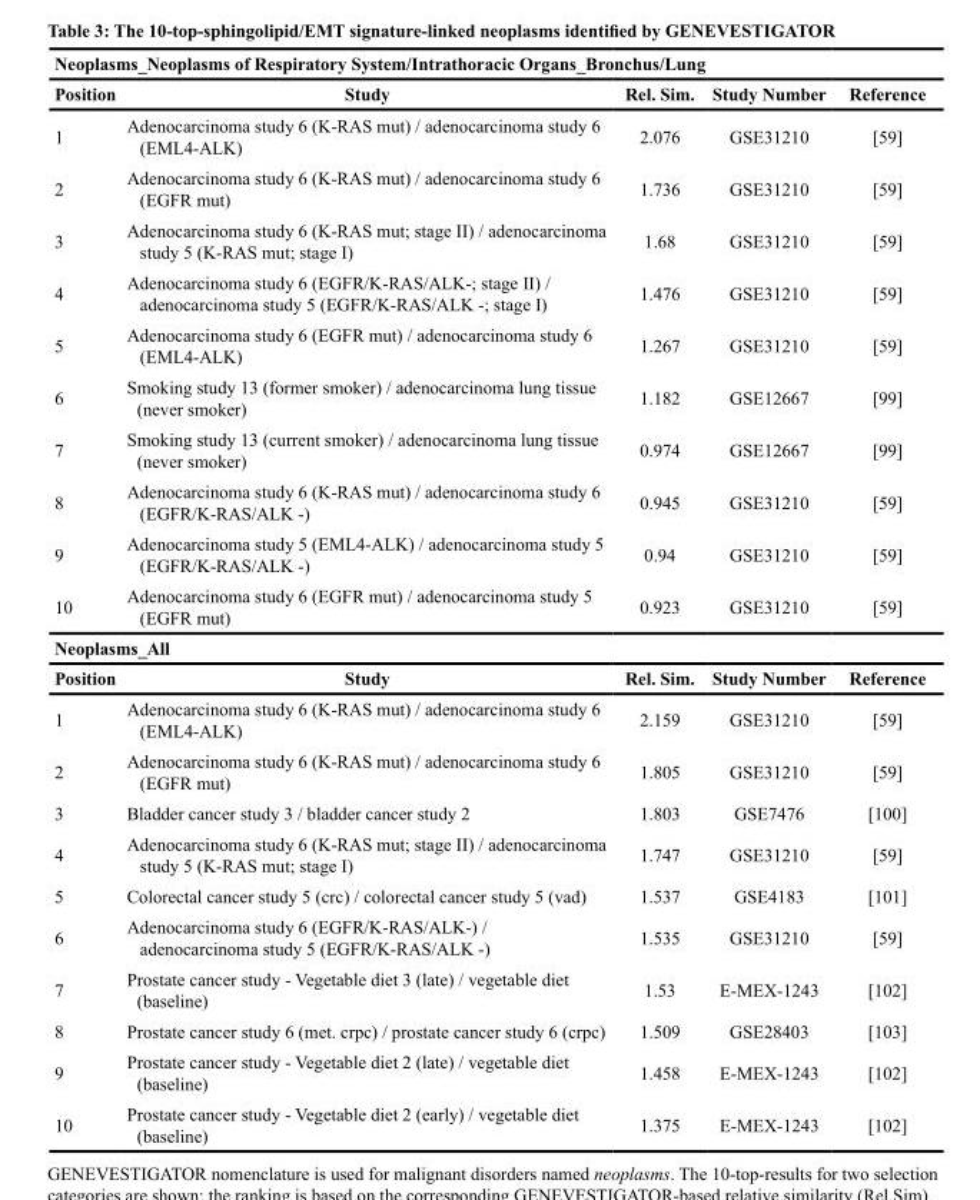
<table><thead><tr><td colspan="5">Neoplasms_Neoplasms of Respiratory System/Intrathoracic Organs_Bronchus/Lung</td></tr><tr><td>Position</td><td>Study</td><td>Rel. Sim.</td><td>Study Number</td><td>Reference</td></tr></thead><tbody><tr><td>1</td><td>A denocarcinoma study 6 (K-RAS mut) / adenocarcinoma study 6 (EML4-ALK)</td><td>2.076</td><td>GSE31210</td><td>[59]</td></tr><tr><td>2</td><td>A denocarcinoma study 6 (K-RAS mut) / adenocarcinoma study 6 (EGFR mut)</td><td>1.736</td><td>GSE31210</td><td>[59]</td></tr><tr><td>3</td><td>A denocarcinoma study 6 (K-RAS mut; stage II) / adenocarcinoma study 5 (K-RAS mut; stage I)</td><td>1.68</td><td>GSE31210</td><td>[59]</td></tr><tr><td>4</td><td>A denocarcinoma study 6 (EGFR/K-RAS/ALK-; stage II) / adenocarcinoma study 5 (EGFR/K-RAS/ALK -; stage I)</td><td>1.476</td><td>GSE31210</td><td>[59]</td></tr><tr><td>5</td><td>A denocarcinoma study 6 (EGFR mut) / adenocarcinoma study 6 (EML4-ALK)</td><td>1.267</td><td>GSE31210</td><td>[59]</td></tr><tr><td>6</td><td>S moking study 13 (former smoker) / adenocarcinoma lung tissue (never smoker)</td><td>1.182</td><td>GSE12667</td><td>[99]</td></tr><tr><td>7</td><td>S moking study 13 (current smoker) / adenocarcinoma lung tissue (never smoker)</td><td>0.974</td><td>GSE12667</td><td>[99]</td></tr><tr><td>8</td><td>A denocarcinoma study 6 (K-RAS mut) / adenocarcinoma study 6 (EGFR/K-RAS/ALK -)</td><td>0.945</td><td>GSE31210</td><td>[59]</td></tr><tr><td>9</td><td>A denocarcinoma study 5 (EML4-ALK) / adenocarcinoma study 5 (EGFR/K-RAS/ALK -)</td><td>0.94</td><td>GSE31210</td><td>[59]</td></tr><tr><td>10</td><td>A denocarcinoma study 6 (EGFR mut) / adenocarcinoma study 5 (EGFR mut)</td><td>0.923</td><td>GSE31210</td><td>[59]</td></tr><tr><td colspan="5">Neoplasms_All</td></tr><tr><td>Position</td><td>Study</td><td>Rel. Sim.</td><td>Study Number</td><td>Reference</td></tr><tr><td>1</td><td>A denocarcinoma study 6 (K-RAS mut) / adenocarcinoma study 6 (EML4-ALK)</td><td>2.159</td><td>GSE31210</td><td>[59]</td></tr><tr><td>2</td><td>A denocarcinoma study 6 (K-RAS mut) / adenocarcinoma study 6 (EGFR mut)</td><td>1.805</td><td>GSE31210</td><td>[59]</td></tr><tr><td>3</td><td>Bladder cancer study 3 / bladder cancer study 2</td><td>1.803</td><td>GSE7476</td><td>[100]</td></tr><tr><td>4</td><td>A denocarcinoma study 6 (K-RAS mut; stage II) / adenocarcinoma study 5 (K-RAS mut; stage I)</td><td>1.747</td><td>GSE31210</td><td>[59]</td></tr><tr><td>5</td><td>Colorectal cancer study 5 (crc) / colorectal cancer study 5 (vad)</td><td>1.537</td><td>GSE4183</td><td>[101]</td></tr><tr><td>6</td><td>A denocarcinoma study 6 (EGFR/K-RAS/ALK-) / adenocarcinoma study 5 (EGFR/K-RAS/ALK -)</td><td>1.535</td><td>GSE31210</td><td>[59]</td></tr><tr><td>7</td><td>P rostate cancer study - Vegetable diet 3 (late) / vegetable diet (baseline)</td><td>1.53</td><td>E-MEX-1243</td><td>[102]</td></tr><tr><td>8</td><td>Prostate cancer study 6 (met. crpc) / prostate cancer study 6 (crpc)</td><td>1.509</td><td>GSE28403</td><td>[103]</td></tr><tr><td>9</td><td>P rostate cancer study - Vegetable diet 2 (late) / vegetable diet (baseline)</td><td>1.458</td><td>E-MEX-1243</td><td>[102]</td></tr><tr><td>10</td><td>P rostate cancer study - Vegetable diet 2 (early) / vegetable diet (baseline)</td><td>1.375</td><td>E-MEX-1243</td><td>[102]</td></tr></tbody></table>